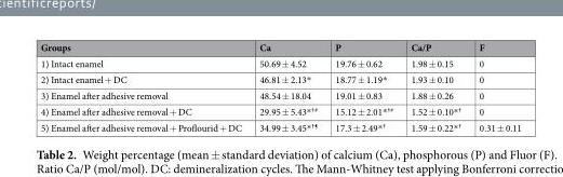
<table><thead><tr><td>Groups</td><td>Ca</td><td>P</td><td>Ca/P</td><td>F</td></tr></thead><tbody><tr><td>1) Intact enamel</td><td>50.69 ± 4.52</td><td>19.76 ± 0.62</td><td>1.98 ± 0.15</td><td>0</td></tr><tr><td>2) Intact enamel + DC</td><td>46.81 ± 2.13*</td><td>18.77 ± 1.19*</td><td>1.93 ± 0.10</td><td>0</td></tr><tr><td>3) Enamel after adhesive removal</td><td>48.54 ± 18.04</td><td>19.01 ± 0.83</td><td>1.88 ± 0.26</td><td>0</td></tr><tr><td>4) Enamel after adhesive removal + DC</td><td>29.95 ± 5.43*<sup>†#</sup></td><td>15.12 ± 2.01*<sup>†#</sup></td><td>1.52 ± 0.10*<sup>†</sup></td><td>0</td></tr><tr><td>5) Enamel after adhesive removal + Proflourid + DC</td><td>34.99 ± 3.45*<sup>†¶</sup></td><td>17.3 ± 2.49*<sup>†</sup></td><td>1.59 ± 0.22*<sup>†</sup></td><td>0.31 ± 0.11</td></tr></tbody></table>